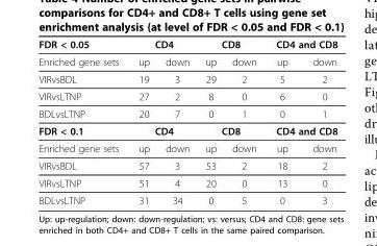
<table><thead><tr><td rowspan="2">FDR &lt; 0.05 Enriched gene sets</td><td colspan="2">CD4</td><td colspan="2">CD8</td><td colspan="2">CD4 and CD8</td></tr><tr><td>up</td><td>down</td><td>up</td><td>down</td><td>up</td><td>down</td></tr></thead><tbody><tr><td>VIRvsBDL</td><td>19</td><td>3</td><td>29</td><td>2</td><td>5</td><td>2</td></tr><tr><td>VIRvsLTNP</td><td>27</td><td>2</td><td>8</td><td>0</td><td>6</td><td>0</td></tr><tr><td>BDLvsLTNP</td><td>20</td><td>7</td><td>0</td><td>1</td><td>0</td><td>1</td></tr><tr><td>FDR &lt; 0.1</td><td colspan="2">CD4</td><td colspan="2">CD8</td><td colspan="2">CD4 and CD8</td></tr><tr><td>Enriched gene sets</td><td>up</td><td>down</td><td>up</td><td>down</td><td>up</td><td>down</td></tr><tr><td>VIRvsBDL</td><td>57</td><td>3</td><td>53</td><td>2</td><td>18</td><td>2</td></tr><tr><td>VIRvsLTNP</td><td>51</td><td>4</td><td>20</td><td>0</td><td>13</td><td>0</td></tr><tr><td>BDLvsLTNP</td><td>31</td><td>34</td><td>0</td><td>5</td><td>0</td><td>3</td></tr></tbody></table>